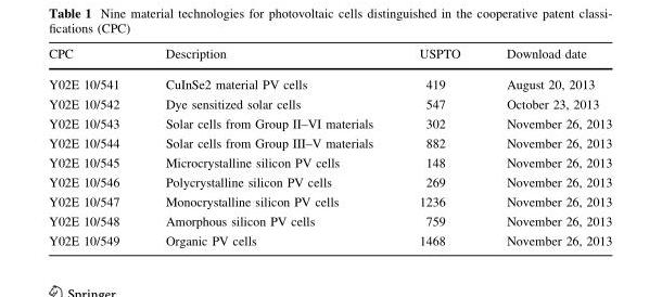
<table><thead><tr><td>CPC</td><td>Description</td><td>USPTO</td><td>Download date</td></tr></thead><tbody><tr><td>Y02E 10/541</td><td>CuInSe2 material PV cells</td><td>419</td><td>August 20, 2013</td></tr><tr><td>Y02E 10/542</td><td>Dye sensitized solar cells</td><td>547</td><td>October 23, 2013</td></tr><tr><td>Y02E 10/543</td><td>Solar cells from Group II–VI materials</td><td>302</td><td>November 26, 2013</td></tr><tr><td>Y02E 10/544</td><td>Solar cells from Group III–V materials</td><td>882</td><td>November 26, 2013</td></tr><tr><td>Y02E 10/545</td><td>Microcrystalline silicon PV cells</td><td>148</td><td>November 26, 2013</td></tr><tr><td>Y02E 10/546</td><td>Polycrystalline silicon PV cells</td><td>269</td><td>November 26, 2013</td></tr><tr><td>Y02E 10/547</td><td>Monocrystalline silicon PV cells</td><td>1236</td><td>November 26, 2013</td></tr><tr><td>Y02E 10/548</td><td>Amorphous silicon PV cells</td><td>759</td><td>November 26, 2013</td></tr><tr><td>Y02E 10/549</td><td>Organic PV cells</td><td>1468</td><td>November 26, 2013</td></tr></tbody></table>